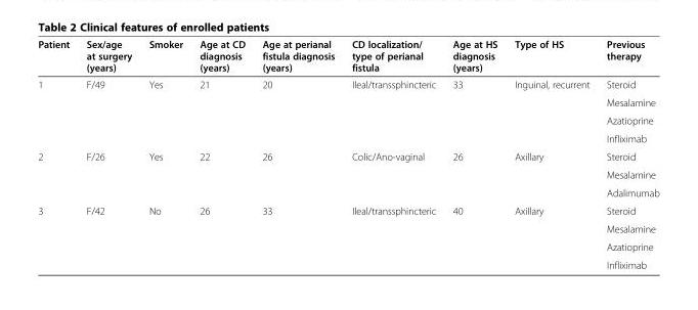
<table><thead><tr><td>Patient</td><td>Sex/age at surgery (years)</td><td>Smoker</td><td>Age at CD diagnosis (years)</td><td>Age at perianal fistula diagnosis (years)</td><td>CD localization/ type of perianal fistula</td><td>Age at HS diagnosis (years)</td><td>Type of HS</td><td>Previous therapy</td></tr></thead><tbody><tr><td rowspan="4">1</td><td rowspan="4">F/49</td><td rowspan="4">Yes</td><td rowspan="4">21</td><td rowspan="4">20</td><td rowspan="4">Ileal/transsphincteric</td><td rowspan="4">33</td><td rowspan="4">Inguinal, recurrent</td><td>Steroid</td></tr><tr><td>Mesalamine</td></tr><tr><td>Azatioprine</td></tr><tr><td>Infliximab</td></tr><tr><td rowspan="3">2</td><td rowspan="3">F/26</td><td rowspan="3">Yes</td><td rowspan="3">22</td><td rowspan="3">26</td><td rowspan="3">Colic/Ano-vaginal</td><td rowspan="3">26</td><td rowspan="3">Axillary</td><td>Steroid</td></tr><tr><td>Mesalamine</td></tr><tr><td>Adalimumab</td></tr><tr><td rowspan="4">3</td><td rowspan="4">F/42</td><td rowspan="4">No</td><td rowspan="4">26</td><td rowspan="4">33</td><td rowspan="4">Ileal/transsphincteric</td><td rowspan="4">40</td><td rowspan="4">Axillary</td><td>Steroid</td></tr><tr><td>Mesalamine</td></tr><tr><td>Azatioprine</td></tr><tr><td>Infliximab</td></tr></tbody></table>